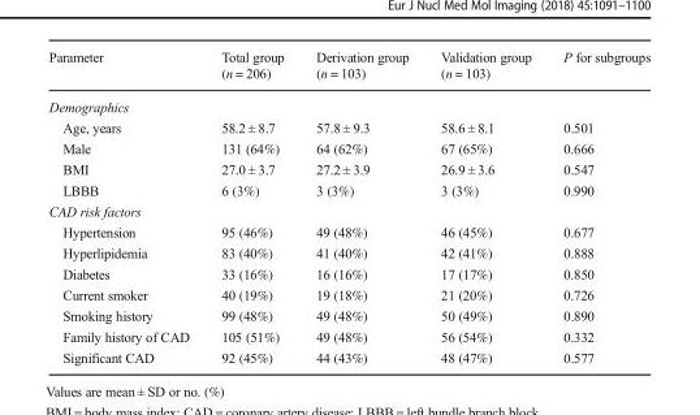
<table><thead><tr><td>Parameter</td><td>Total group (n = 206)</td><td>Derivation group (n = 103)</td><td>Validation group (n = 103)</td><td>P for subgroups</td></tr></thead><tbody><tr><td colspan="5">Demographics</td></tr><tr><td>Age, years</td><td>58.2 ± 8.7</td><td>57.8 ± 9.3</td><td>58.6 ± 8.1</td><td>0.501</td></tr><tr><td>Male</td><td>131 (64%)</td><td>64 (62%)</td><td>67 (65%)</td><td>0.666</td></tr><tr><td>BMI</td><td>27.0 ± 3.7</td><td>27.2 ± 3.9</td><td>26.9 ± 3.6</td><td>0.547</td></tr><tr><td>LBBB</td><td>6 (3%)</td><td>3 (3%)</td><td>3 (3%)</td><td>0.990</td></tr><tr><td colspan="5">CAD risk factors</td></tr><tr><td>Hypertension</td><td>95 (46%)</td><td>49 (48%)</td><td>46 (45%)</td><td>0.677</td></tr><tr><td>Hyperlipidemia</td><td>83 (40%)</td><td>41 (40%)</td><td>42 (41%)</td><td>0.888</td></tr><tr><td>Diabetes</td><td>33 (16%)</td><td>16 (16%)</td><td>17 (17%)</td><td>0.850</td></tr><tr><td>Current smoker</td><td>40 (19%)</td><td>19 (18%)</td><td>21 (20%)</td><td>0.726</td></tr><tr><td>Smoking history</td><td>99 (48%)</td><td>49 (48%)</td><td>50 (49%)</td><td>0.890</td></tr><tr><td>Family history of CAD</td><td>105 (51%)</td><td>49 (48%)</td><td>56 (54%)</td><td>0.332</td></tr><tr><td>Significant CAD</td><td>92 (45%)</td><td>44 (43%)</td><td>48 (47%)</td><td>0.577</td></tr></tbody></table>